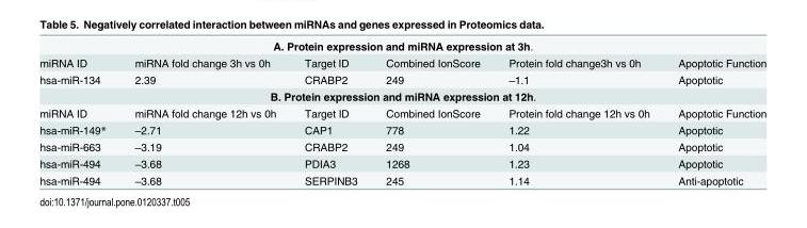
<table><tbody><tr><td colspan="6">A. Protein expression and miRNA expression at 3h.</td></tr><tr><td>miRNA ID</td><td>miRNA fold change 3h vs 0h</td><td>Target ID</td><td>Combined IonScore</td><td>Protein fold change3h vs 0h</td><td>Apoptotic Function</td></tr><tr><td>hsa-miR-134</td><td>2.39</td><td>CRABP2</td><td>249</td><td>‒1.1</td><td>Apoptotic</td></tr><tr><td colspan="6">B. Protein expression and miRNA expression at 12h.</td></tr><tr><td>miRNA ID</td><td>miRNA fold change 12h vs 0h</td><td>Target ID</td><td>Combined IonScore</td><td>Protein fold change 12h vs 0h</td><td>Apoptotic Function</td></tr><tr><td>hsa-miR-149*</td><td>‒2.71</td><td>CAP1</td><td>778</td><td>1.22</td><td>Apoptotic</td></tr><tr><td>hsa-miR-663</td><td>‒3.19</td><td>CRABP2</td><td>249</td><td>1.04</td><td>Apoptotic</td></tr><tr><td>hsa-miR-494</td><td>‒3.68</td><td>PDIA3</td><td>1268</td><td>1.23</td><td>Apoptotic</td></tr><tr><td>hsa-miR-494</td><td>‒3.68</td><td>SERPINB3</td><td>245</td><td>1.14</td><td>Anti-apoptotic</td></tr></tbody></table>